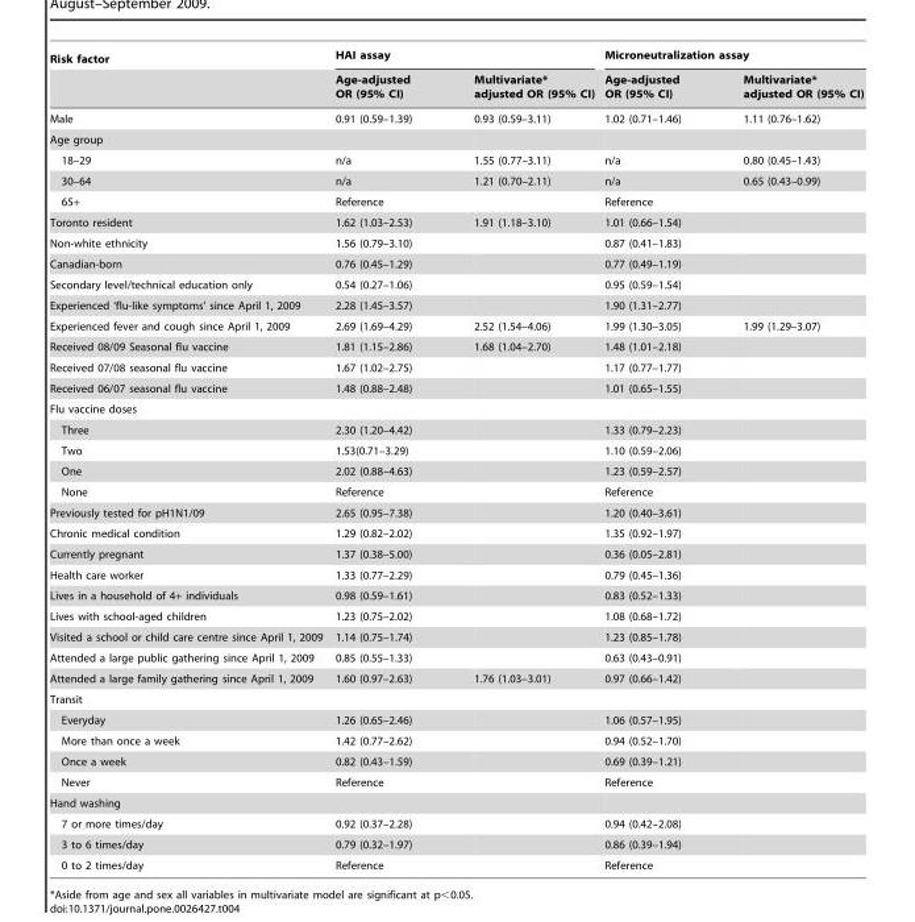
<table><thead><tr><td rowspan="2">Risk factor</td><td colspan="2">HAI assay</td><td colspan="2">Microneutralization assay</td></tr><tr><td>Age-adjusted OR (95% CI)</td><td>Multivariate* adjusted OR (95% CI)</td><td>Age-adjusted OR (95% CI)</td><td>Multivariate* adjusted OR (95% CI)</td></tr></thead><tbody><tr><td>Male</td><td>0.91 (0.59–1.39)</td><td>0.93 (0.59–3.11)</td><td>1.02 (0.71–1.46)</td><td>1.11 (0.76–1.62)</td></tr><tr><td colspan="5">Age group</td></tr><tr><td>18–29</td><td>n/a</td><td>1.55 (0.77–3.11)</td><td>n/a</td><td>0.80 (0.45–1.43)</td></tr><tr><td>30–64</td><td>n/a</td><td>1.21 (0.70–2.11)</td><td>n/a</td><td>0.65 (0.43–0.99)</td></tr><tr><td>65+</td><td colspan="2">Reference</td><td colspan="2">Reference</td></tr><tr><td>Toronto resident</td><td>1.62 (1.03–2.53)</td><td>1.91 (1.18–3.10)</td><td>1.01 (0.66–1.54)</td><td></td></tr><tr><td>Non-white ethnicity</td><td>1.56 (0.79–3.10)</td><td></td><td>0.87 (0.41–1.83)</td><td></td></tr><tr><td>Canadian-born</td><td>0.76 (0.45–1.29)</td><td></td><td>0.77 (0.49–1.19)</td><td></td></tr><tr><td>Secondary level/technical education only</td><td>0.54 (0.27–1.06)</td><td></td><td>0.95 (0.59–1.54)</td><td></td></tr><tr><td>Experienced ‘flu-like symptoms’ since April 1, 2009</td><td>2.28 (1.45–3.57)</td><td></td><td>1.90 (1.31–2.77)</td><td></td></tr><tr><td>Experienced fever and cough since April 1, 2009</td><td>2.69 (1.69–4.29)</td><td>2.52 (1.54–4.06)</td><td>1.99 (1.30–3.05)</td><td>1.99 (1.29–3.07)</td></tr><tr><td>Received 08/09 Seasonal flu vaccine</td><td>1.81 (1.15–2.86)</td><td>1.68 (1.04–2.70)</td><td>1.48 (1.01–2.18)</td><td></td></tr><tr><td>Received 07/08 seasonal flu vaccine</td><td>1.67 (1.02–2.75)</td><td></td><td>1.17 (0.77–1.77)</td><td></td></tr><tr><td>Received 06/07 seasonal flu vaccine</td><td>1.48 (0.88–2.48)</td><td></td><td>1.01 (0.65–1.55)</td><td></td></tr><tr><td colspan="5">Flu vaccine doses</td></tr><tr><td>Three</td><td>2.30 (1.20–4.42)</td><td></td><td>1.33 (0.79–2.23)</td><td></td></tr><tr><td>Two</td><td>1.53(0.71–3.29)</td><td></td><td>1.10 (0.59–2.06)</td><td></td></tr><tr><td>One</td><td>2.02 (0.88–4.63)</td><td></td><td>1.23 (0.59–2.57)</td><td></td></tr><tr><td>None</td><td colspan="2">Reference</td><td colspan="2">Reference</td></tr><tr><td>Previously tested for pH1N1/09</td><td>2.65 (0.95–7.38)</td><td></td><td>1.20 (0.40–3.61)</td><td></td></tr><tr><td>Chronic medical condition</td><td>1.29 (0.82–2.02)</td><td></td><td>1.35 (0.92–1.97)</td><td></td></tr><tr><td>Currently pregnant</td><td>1.37 (0.38–5.00)</td><td></td><td>0.36 (0.05–2.81)</td><td></td></tr><tr><td>Health care worker</td><td>1.33 (0.77–2.29)</td><td></td><td>0.79 (0.45–1.36)</td><td></td></tr><tr><td>Lives in a household of 4+ individuals</td><td>0.98 (0.59–1.61)</td><td></td><td>0.83 (0.52–1.33)</td><td></td></tr><tr><td>Lives with school-aged children</td><td>1.23 (0.75–2.02)</td><td></td><td>1.08 (0.68–1.72)</td><td></td></tr><tr><td>Visited a school or child care centre since April 1, 2009</td><td>1.14 (0.75–1.74)</td><td></td><td>1.23 (0.85–1.78)</td><td></td></tr><tr><td>Attended a large public gathering since April 1, 2009</td><td>0.85 (0.55–1.33)</td><td></td><td>0.63 (0.43–0.91)</td><td></td></tr><tr><td>Attended a large family gathering since April 1, 2009</td><td>1.60 (0.97–2.63)</td><td>1.76 (1.03–3.01)</td><td>0.97 (0.66–1.42)</td><td></td></tr><tr><td colspan="5">Transit</td></tr><tr><td>Everyday</td><td>1.26 (0.65–2.46)</td><td></td><td>1.06 (0.57–1.95)</td><td></td></tr><tr><td>More than once a week</td><td>1.42 (0.77–2.62)</td><td></td><td>0.94 (0.52–1.70)</td><td></td></tr><tr><td>Once a week</td><td>0.82 (0.43–1.59)</td><td></td><td>0.69 (0.39–1.21)</td><td></td></tr><tr><td>Never</td><td colspan="2">Reference</td><td colspan="2">Reference</td></tr><tr><td colspan="5">Hand washing</td></tr><tr><td>7 or more times/day</td><td>0.92 (0.37–2.28)</td><td></td><td>0.94 (0.42–2.08)</td><td></td></tr><tr><td>3 to 6 times/day</td><td>0.79 (0.32–1.97)</td><td></td><td>0.86 (0.39–1.94)</td><td></td></tr><tr><td>0 to 2 times/day</td><td colspan="2">Reference</td><td colspan="2">Reference</td></tr></tbody></table>